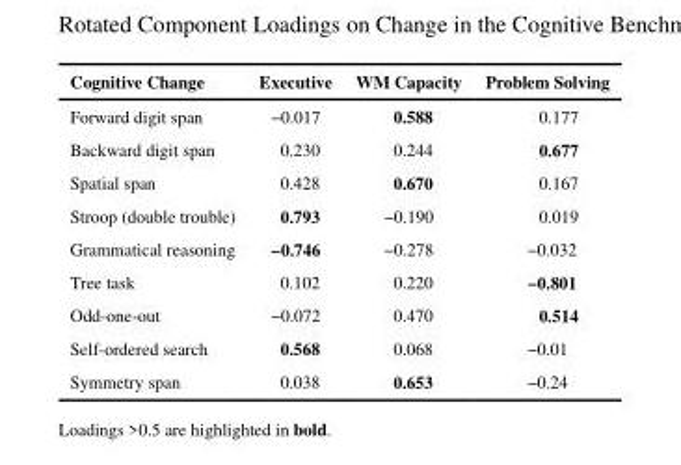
<table><thead><tr><td>Cognitive Change</td><td>Executive</td><td>WM Capacity</td><td>Problem Solving</td></tr></thead><tbody><tr><td>Forward digit span</td><td>−0.017</td><td>0.588</td><td>0.177</td></tr><tr><td>Backward digit span</td><td>0.230</td><td>0.244</td><td>0.677</td></tr><tr><td>Spatial span</td><td>0.428</td><td>0.670</td><td>0.167</td></tr><tr><td>Stroop (double trouble)</td><td>0.793</td><td>−0.190</td><td>0.019</td></tr><tr><td>Grammatical reasoning</td><td>−0.746</td><td>−0.278</td><td>−0.032</td></tr><tr><td>Tree task</td><td>0.102</td><td>0.220</td><td>−0.801</td></tr><tr><td>Odd-one-out</td><td>−0.072</td><td>0.470</td><td>0.514</td></tr><tr><td>Self-ordered search</td><td>0.568</td><td>0.068</td><td>−0.01</td></tr><tr><td>Symmetry span</td><td>0.038</td><td>0.653</td><td>−0.24</td></tr></tbody></table>